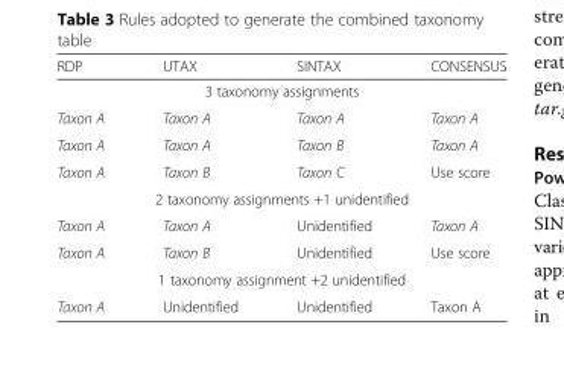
<table><thead><tr><td>RDP</td><td>UTAX</td><td>SINTAX</td><td>CONSENSUS</td></tr></thead><tbody><tr><td colspan="4">3 taxonomy assignments</td></tr><tr><td>Taxon A</td><td>Taxon A</td><td>Taxon A</td><td>Taxon A</td></tr><tr><td>Taxon A</td><td>Taxon A</td><td>Taxon B</td><td>Taxon A</td></tr><tr><td>Taxon A</td><td>Taxon B</td><td>Taxon C</td><td>Use score</td></tr><tr><td colspan="4">2 taxonomy assignments +1 unidentified</td></tr><tr><td>Taxon A</td><td>Taxon A</td><td>Unidentified</td><td>Taxon A</td></tr><tr><td>Taxon A</td><td>Taxon B</td><td>Unidentified</td><td>Use score</td></tr><tr><td colspan="4">1 taxonomy assignment +2 unidentified</td></tr><tr><td>Taxon A</td><td>Unidentified</td><td>Unidentified</td><td>Taxon A</td></tr></tbody></table>